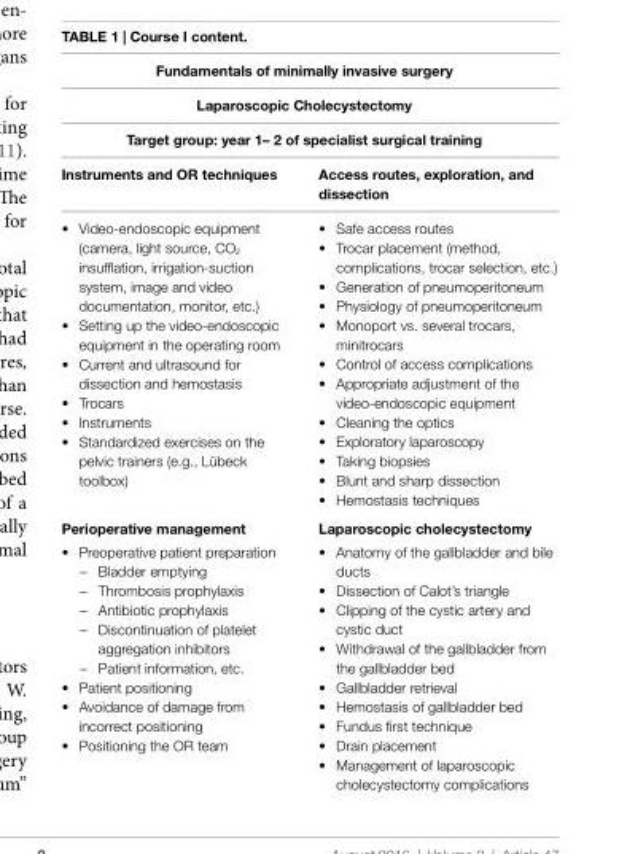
<table><thead><tr><td rowspan="3" colspan="2">Fundamentals of minimally invasive surgery laparoscopic Cholecystectomy target group: year 1– 2 of specialist surgical training</td></tr><tr></tr><tr></tr><tr><td>instruments and or techniques</td><td>access routes, exploration, and dissection</td></tr></thead><tbody><tr><td>• Video-endoscopic equipment (camera, light source, CO2 insufflation, irrigation-suction system, image and video documentation, monitor, etc.) • Setting up the video-endoscopic equipment in the operating room • Current and ultrasound for dissection and hemostasis • Trocars • Instruments • Standardized exercises on the pelvic trainers (e.g., Lübeck toolbox)</td><td>• Safe access routes • Trocar placement (method, complications, trocar selection, etc.) • Generation of pneumoperitoneum • Physiology of pneumoperitoneum • Monoport vs. several trocars, minitrocars • Control of access complications • Appropriate adjustment of the video-endoscopic equipment • Cleaning the optics • Exploratory laparoscopy • Taking biopsies • Blunt and sharp dissection • Hemostasis techniques</td></tr><tr><td>Perioperative management</td><td>laparoscopic cholecystectomy</td></tr><tr><td>• Preoperative patient preparation – Bladder emptying – Thrombosis prophylaxis – Antibiotic prophylaxis – Discontinuation of platelet aggregation inhibitors – Patient information, etc. • Patient positioning • Avoidance of damage from incorrect positioning • Positioning the OR team</td><td>• Anatomy of the gallbladder and bile ducts • Dissection of Calot’s triangle • Clipping of the cystic artery and cystic duct • Withdrawal of the gallbladder from the gallbladder bed • Gallbladder retrieval • Hemostasis of gallbladder bed • Fundus first technique • Drain placement • Management of laparoscopic cholecystectomy complications</td></tr></tbody></table>